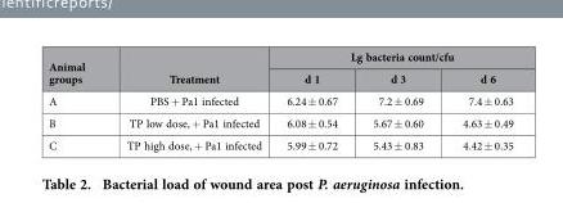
<table><thead><tr><td rowspan="2">Animal groups</td><td rowspan="2">Treatment</td><td colspan="3">Lg bacteria count/cfu</td></tr><tr><td>d 1</td><td>d 3</td><td>d 6</td></tr></thead><tbody><tr><td>A</td><td>PBS + Pa1 infected</td><td>6.24 ± 0.67</td><td>7.2 ± 0.69</td><td>7.4 ± 0.63</td></tr><tr><td>B</td><td>TP low dose, + Pa1 infected</td><td>6.08 ± 0.54</td><td>5.67 ± 0.60</td><td>4.63 ± 0.49</td></tr><tr><td>C</td><td>TP high dose, + Pa1 infected</td><td>5.99 ± 0.72</td><td>5.43 ± 0.83</td><td>4.42 ± 0.35</td></tr></tbody></table>